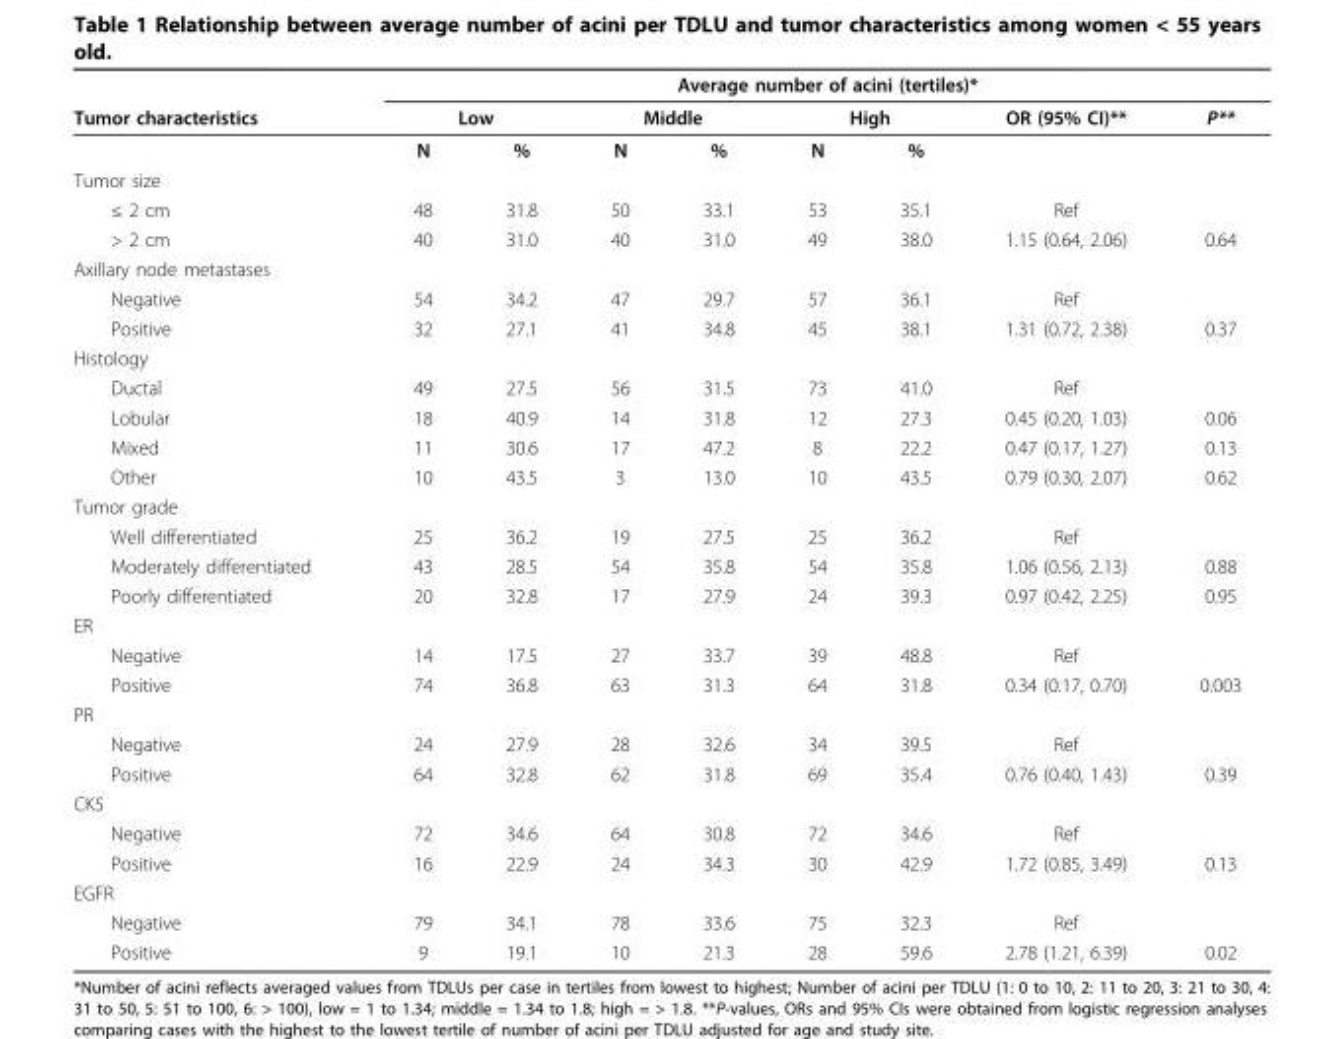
<table><thead><tr><td rowspan="3">Tumor characteristics</td><td colspan="8">Average number of acini (tertiles)*</td></tr><tr><td colspan="2">Low</td><td colspan="2">Middle</td><td colspan="2">High</td><td rowspan="2">OR (95% CI)**</td><td rowspan="2">P**</td></tr><tr><td>N</td><td>%</td><td>N</td><td>%</td><td>N</td><td>%</td></tr></thead><tbody><tr><td colspan="9">Tumor size</td></tr><tr><td>≤ 2 cm</td><td>48</td><td>31.8</td><td>50</td><td>33.1</td><td>53</td><td>35.1</td><td>Ref</td><td></td></tr><tr><td>&gt; 2 cm</td><td>40</td><td>31.0</td><td>40</td><td>31.0</td><td>49</td><td>38.0</td><td>1.15 (0.64, 2.06)</td><td>0.64</td></tr><tr><td colspan="9">Axillary node metastases</td></tr><tr><td>Negative</td><td>54</td><td>34.2</td><td>47</td><td>29.7</td><td>57</td><td>36.1</td><td>Ref</td><td></td></tr><tr><td>Positive</td><td>32</td><td>27.1</td><td>41</td><td>34.8</td><td>45</td><td>38.1</td><td>1.31 (0.72, 2.38)</td><td>0.37</td></tr><tr><td colspan="9">Histology</td></tr><tr><td>Ductal</td><td>49</td><td>27.5</td><td>56</td><td>31.5</td><td>73</td><td>41.0</td><td>Ref</td><td></td></tr><tr><td>Lobular</td><td>18</td><td>40.9</td><td>14</td><td>31.8</td><td>12</td><td>27.3</td><td>0.45 (0.20, 1.03)</td><td>0.06</td></tr><tr><td>Mixed</td><td>11</td><td>30.6</td><td>17</td><td>47.2</td><td>8</td><td>22.2</td><td>0.47 (0.17, 1.27)</td><td>0.13</td></tr><tr><td>Other</td><td>10</td><td>43.5</td><td>3</td><td>13.0</td><td>10</td><td>43.5</td><td>0.79 (0.30, 2.07)</td><td>0.62</td></tr><tr><td colspan="9">Tumor grade</td></tr><tr><td>Well differentiated</td><td>25</td><td>36.2</td><td>19</td><td>27.5</td><td>25</td><td>36.2</td><td>Ref</td><td></td></tr><tr><td>Moderately differentiated</td><td>43</td><td>28.5</td><td>54</td><td>35.8</td><td>54</td><td>35.8</td><td>1.06 (0.56, 2.13)</td><td>0.88</td></tr><tr><td>Poorly differentiated</td><td>20</td><td>32.8</td><td>17</td><td>27.9</td><td>24</td><td>39.3</td><td>0.97 (0.42, 2.25)</td><td>0.95</td></tr><tr><td colspan="9">ER</td></tr><tr><td>Negative</td><td>14</td><td>17.5</td><td>27</td><td>33.7</td><td>39</td><td>48.8</td><td>Ref</td><td></td></tr><tr><td>Positive</td><td>74</td><td>36.8</td><td>63</td><td>31.3</td><td>64</td><td>31.8</td><td>0.34 (0.17, 0.70)</td><td>0.003</td></tr><tr><td colspan="9">PR</td></tr><tr><td>Negative</td><td>24</td><td>27.9</td><td>28</td><td>32.6</td><td>34</td><td>39.5</td><td>Ref</td><td></td></tr><tr><td>Positive</td><td>64</td><td>32.8</td><td>62</td><td>31.8</td><td>69</td><td>35.4</td><td>0.76 (0.40, 1.43)</td><td>0.39</td></tr><tr><td colspan="9">CK5</td></tr><tr><td>Negative</td><td>72</td><td>34.6</td><td>64</td><td>30.8</td><td>72</td><td>34.6</td><td>Ref</td><td></td></tr><tr><td>Positive</td><td>16</td><td>22.9</td><td>24</td><td>34.3</td><td>30</td><td>42.9</td><td>1.72 (0.85, 3.49)</td><td>0.13</td></tr><tr><td colspan="9">EGFR</td></tr><tr><td>Negative</td><td>79</td><td>34.1</td><td>78</td><td>33.6</td><td>75</td><td>32.3</td><td>Ref</td><td></td></tr><tr><td>Positive</td><td>9</td><td>19.1</td><td>10</td><td>21.3</td><td>28</td><td>59.6</td><td>2.78 (1.21, 6.39)</td><td>0.02</td></tr></tbody></table>